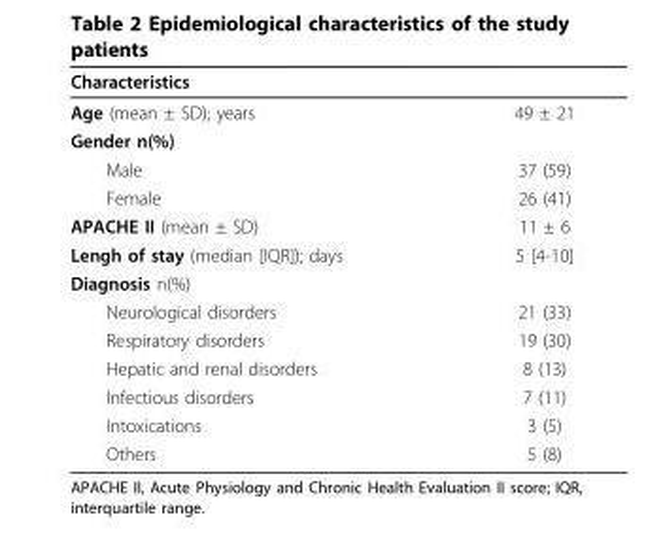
<table><thead><tr><td>Characteristics</td><td></td></tr></thead><tbody><tr><td>Age (mean ± SD); years</td><td>49 ± 21</td></tr><tr><td colspan="2">Gender n(%)</td></tr><tr><td>Male</td><td>37 (59)</td></tr><tr><td>Female</td><td>26 (41)</td></tr><tr><td>APACHE II (mean ± SD)</td><td>11 ± 6</td></tr><tr><td>Lengh of stay (median [IQR]); days</td><td>5 [4-10]</td></tr><tr><td colspan="2">Diagnosis n(%)</td></tr><tr><td>Neurological disorders</td><td>21 (33)</td></tr><tr><td>Respiratory disorders</td><td>19 (30)</td></tr><tr><td>Hepatic and renal disorders</td><td>8 (13)</td></tr><tr><td>Infectious disorders</td><td>7 (11)</td></tr><tr><td>Intoxications</td><td>3 (5)</td></tr><tr><td>Others</td><td>5 (8)</td></tr></tbody></table>